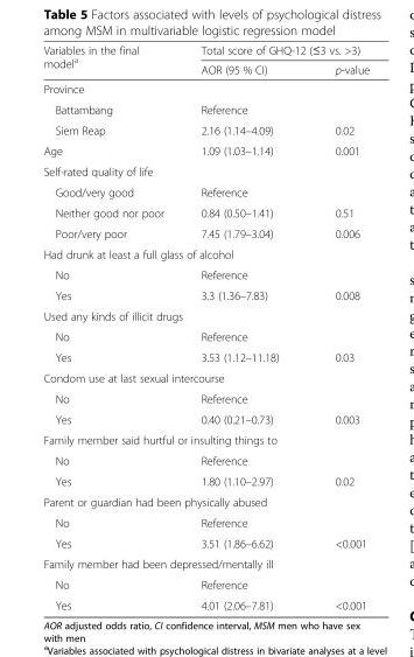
<table><thead><tr><td rowspan="2">Variables in the final model<sup>a</sup></td><td colspan="2">Total score of GHQ-12 (≤3 vs. &gt;3)</td></tr><tr><td>AOR (95 % CI)</td><td>p-value</td></tr></thead><tbody><tr><td colspan="3">Province</td></tr><tr><td>Battambang</td><td>Reference</td><td></td></tr><tr><td>Siem Reap</td><td>2.16 (1.14–4.09)</td><td>0.02</td></tr><tr><td>Age</td><td>1.09 (1.03–1.14)</td><td>0.001</td></tr><tr><td colspan="3">Self-rated quality of life</td></tr><tr><td>Good/very good</td><td>Reference</td><td></td></tr><tr><td>Neither good nor poor</td><td>0.84 (0.50–1.41)</td><td>0.51</td></tr><tr><td>Poor/very poor</td><td>7.45 (1.79–3.04)</td><td>0.006</td></tr><tr><td colspan="3">Had drunk at least a full glass of alcohol</td></tr><tr><td>No</td><td>Reference</td><td></td></tr><tr><td>Yes</td><td>3.3 (1.36–7.83)</td><td>0.008</td></tr><tr><td colspan="3">Used any kinds of illicit drugs</td></tr><tr><td>No</td><td>Reference</td><td></td></tr><tr><td>Yes</td><td>3.53 (1.12–11.18)</td><td>0.03</td></tr><tr><td colspan="3">Condom use at last sexual intercourse</td></tr><tr><td>No</td><td>Reference</td><td></td></tr><tr><td>Yes</td><td>0.40 (0.21–0.73)</td><td>0.003</td></tr><tr><td colspan="3">Family member said hurtful or insulting things to</td></tr><tr><td>No</td><td>Reference</td><td></td></tr><tr><td>Yes</td><td>1.80 (1.10–2.97)</td><td>0.02</td></tr><tr><td colspan="3">Parent or guardian had been physically abused</td></tr><tr><td>No</td><td>Reference</td><td></td></tr><tr><td>Yes</td><td>3.51 (1.86–6.62)</td><td>&lt;0.001</td></tr><tr><td colspan="3">Family member had been depressed/mentally ill</td></tr><tr><td>No</td><td>Reference</td><td></td></tr><tr><td>Yes</td><td>4.01 (2.06–7.81)</td><td>&lt;0.001</td></tr></tbody></table>